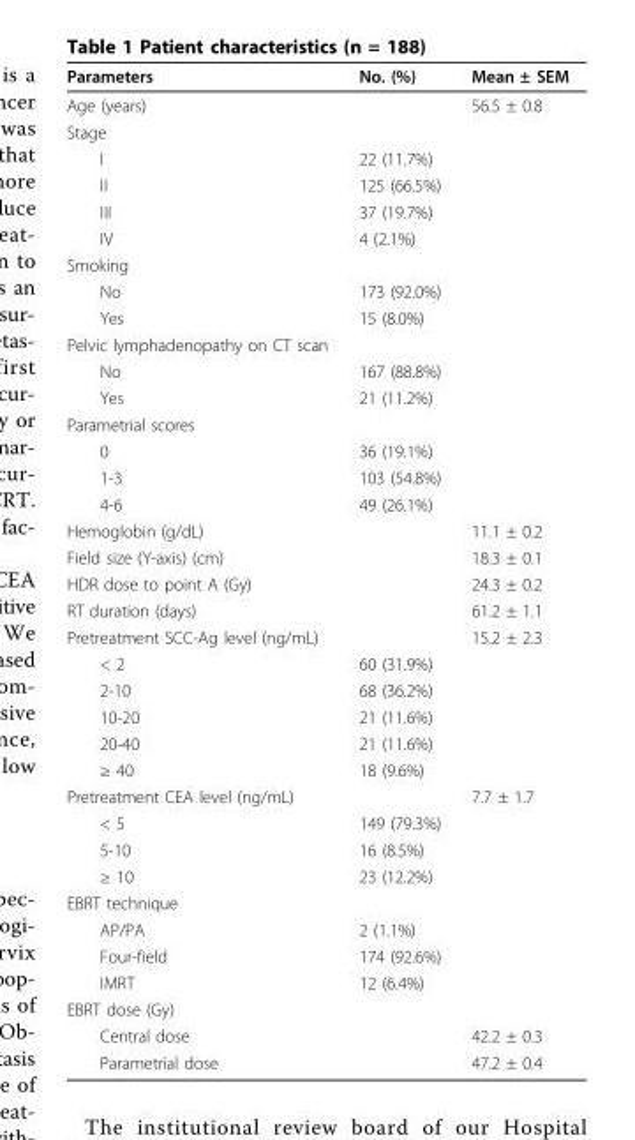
<table><thead><tr><td>Parameters</td><td>No. (%)</td><td>Mean ± SEM</td></tr></thead><tbody><tr><td>Age (years)</td><td></td><td>56.5 ± 0.8</td></tr><tr><td colspan="3">Stage</td></tr><tr><td>I</td><td>22 (11.7%)</td><td></td></tr><tr><td>II</td><td>125 (66.5%)</td><td></td></tr><tr><td>III</td><td>37 (19.7%)</td><td></td></tr><tr><td>IV</td><td>4 (2.1%)</td><td></td></tr><tr><td colspan="3">Smoking</td></tr><tr><td>No</td><td>173 (92.0%)</td><td></td></tr><tr><td>Yes</td><td>15 (8.0%)</td><td></td></tr><tr><td colspan="3">Pelvic lymphadenopathy on CT scan</td></tr><tr><td>No</td><td>167 (88.8%)</td><td></td></tr><tr><td>Yes</td><td>21 (11.2%)</td><td></td></tr><tr><td colspan="3">Parametrial scores</td></tr><tr><td>0</td><td>36 (19.1%)</td><td></td></tr><tr><td>1-3</td><td>103 (54.8%)</td><td></td></tr><tr><td>4-6</td><td>49 (26.1%)</td><td></td></tr><tr><td>Hemoglobin (g/dL)</td><td></td><td>11.1 ± 0.2</td></tr><tr><td>Field size (Y-axis) (cm)</td><td></td><td>18.3 ± 0.1</td></tr><tr><td>HDR dose to point A (Gy)</td><td></td><td>24.3 ± 0.2</td></tr><tr><td>RT duration (days)</td><td></td><td>61.2 ± 1.1</td></tr><tr><td>Pretreatment SCC-Ag level (ng/mL)</td><td></td><td>15.2 ± 2.3</td></tr><tr><td>&lt; 2</td><td>60 (31.9%)</td><td></td></tr><tr><td>2-10</td><td>68 (36.2%)</td><td></td></tr><tr><td>10-20</td><td>21 (11.6%)</td><td></td></tr><tr><td>20-40</td><td>21 (11.6%)</td><td></td></tr><tr><td>≥ 40</td><td>18 (9.6%)</td><td></td></tr><tr><td>Pretreatment CEA level (ng/mL)</td><td></td><td>7.7 ± 1.7</td></tr><tr><td>&lt; 5</td><td>149 (79.3%)</td><td></td></tr><tr><td>5-10</td><td>16 (8.5%)</td><td></td></tr><tr><td>≥ 10</td><td>23 (12.2%)</td><td></td></tr><tr><td colspan="3">EBRT technique</td></tr><tr><td>AP/PA</td><td>2 (1.1%)</td><td></td></tr><tr><td>Four-field</td><td>174 (92.6%)</td><td></td></tr><tr><td>IMRT</td><td>12 (6.4%)</td><td></td></tr><tr><td colspan="3">EBRT dose (Gy)</td></tr><tr><td>Central dose</td><td></td><td>42.2 ± 0.3</td></tr><tr><td>Parametrial dose</td><td></td><td>47.2 ± 0.4</td></tr></tbody></table>